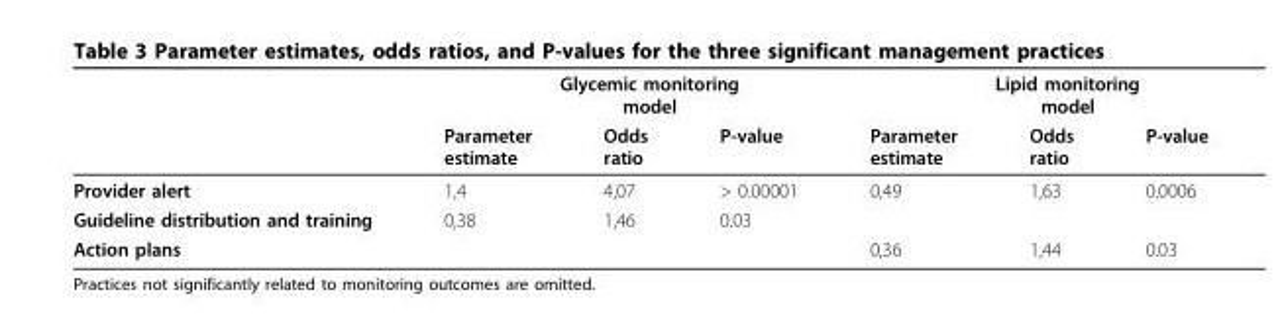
<table><thead><tr><td rowspan="2"></td><td colspan="3">Glycemic monitoring model</td><td colspan="3">Lipid monitoring model</td></tr><tr><td>Parameter estimate</td><td>Odds ratio</td><td>P-value</td><td>Parameter estimate</td><td>Odds ratio</td><td>P-value</td></tr></thead><tbody><tr><td>Provider alert</td><td>1,4</td><td>4,07</td><td>&gt; 0.00001</td><td>0,49</td><td>1,63</td><td>0.0006</td></tr><tr><td>Guideline distribution and training</td><td>0,38</td><td>1,46</td><td>0.03</td><td></td><td></td><td></td></tr><tr><td>Action plans</td><td></td><td></td><td></td><td>0,36</td><td>1,44</td><td>0.03</td></tr></tbody></table>